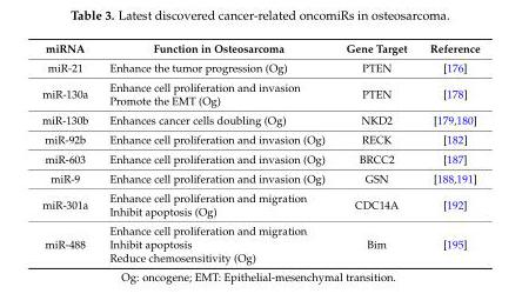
<table><thead><tr><td>miRNA</td><td>Function in Osteosarcoma</td><td>Gene Target</td><td>Reference</td></tr></thead><tbody><tr><td>miR-21</td><td>Enhance the tumor progression (Og)</td><td>PTEN</td><td>[176]</td></tr><tr><td>miR-130a</td><td>Enhance cell proliferation and invasion Promote the EMT (Og)</td><td>PTEN</td><td>[178]</td></tr><tr><td>miR-130b</td><td>Enhances cancer cells doubling (Og)</td><td>NKD2</td><td>[179,180]</td></tr><tr><td>miR-92b</td><td>Enhance cell proliferation and invasion (Og)</td><td>RECK</td><td>[182]</td></tr><tr><td>miR-603</td><td>Enhance cell proliferation and invasion (Og)</td><td>BRCC2</td><td>[187]</td></tr><tr><td>miR-9</td><td>Enhance cell proliferation and invasion (Og)</td><td>GSN</td><td>[188,191]</td></tr><tr><td>miR-301a</td><td>Enhance cell proliferation and migration Inhibit apoptosis (Og)</td><td>CDC14A</td><td>[192]</td></tr><tr><td>miR-488</td><td>Enhance cell proliferation and migration Inhibit apoptosis Reduce chemosensitivity (Og)</td><td>Bim</td><td>[195]</td></tr></tbody></table>